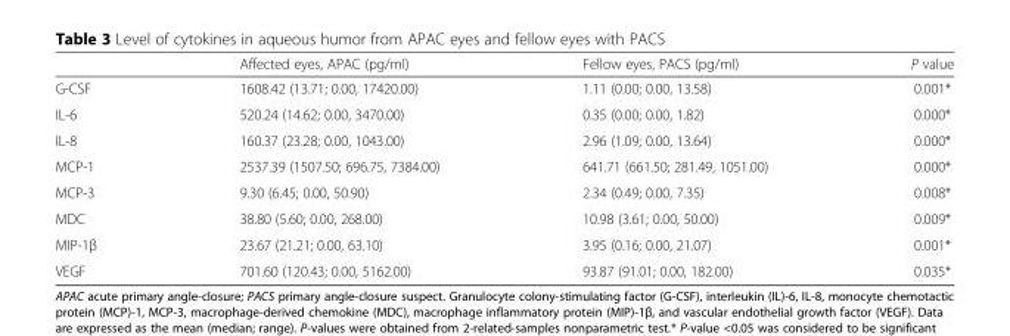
<table><thead><tr><td></td><td>Affected eyes, APAC (pg/ml)</td><td>Fellow eyes, PACS (pg/ml)</td><td>P value</td></tr></thead><tbody><tr><td>G-CSF</td><td>1608.42 (13.71; 0.00, 17420.00)</td><td>1.11 (0.00; 0.00, 13.58)</td><td>0.001*</td></tr><tr><td>IL-6</td><td>520.24 (14.62; 0.00, 3470.00)</td><td>0.35 (0.00; 0.00, 1.82)</td><td>0.000*</td></tr><tr><td>IL-8</td><td>160.37 (23.28; 0.00, 1043.00)</td><td>2.96 (1.09; 0.00, 13.64)</td><td>0.000*</td></tr><tr><td>MCP-1</td><td>2537.39 (1507.50; 696.75, 7384.00)</td><td>641.71 (661.50; 281.49, 1051.00)</td><td>0.000*</td></tr><tr><td>MCP-3</td><td>9.30 (6.45; 0.00, 50.90)</td><td>2.34 (0.49; 0.00, 7.35)</td><td>0.008*</td></tr><tr><td>MDC</td><td>38.80 (5.60; 0.00, 268.00)</td><td>10.98 (3.61; 0.00, 50.00)</td><td>0.009*</td></tr><tr><td>MIP-1β</td><td>23.67 (21.21; 0.00, 63.10)</td><td>3.95 (0.16; 0.00, 21.07)</td><td>0.001*</td></tr><tr><td>VEGF</td><td>701.60 (120.43; 0.00, 5162.00)</td><td>93.87 (91.01; 0.00, 182.00)</td><td>0.035*</td></tr></tbody></table>